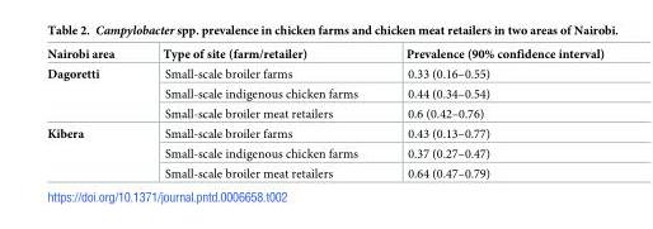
<table><thead><tr><td>Nairobi area</td><td>Type of site (farm/retailer)</td><td>Prevalence (90% confidence interval)</td></tr></thead><tbody><tr><td rowspan="3">Dagoretti</td><td>Small-scale broiler farms</td><td>0.33 (0.16–0.55)</td></tr><tr><td>Small-scale indigenous chicken farms</td><td>0.44 (0.34–0.54)</td></tr><tr><td>Small-scale broiler meat retailers</td><td>0.6 (0.42–0.76)</td></tr><tr><td rowspan="3">Kibera</td><td>Small-scale broiler farms</td><td>0.43 (0.13–0.77)</td></tr><tr><td>Small-scale indigenous chicken farms</td><td>0.37 (0.27–0.47)</td></tr><tr><td>Small-scale broiler meat retailers</td><td>0.64 (0.47–0.79)</td></tr></tbody></table>